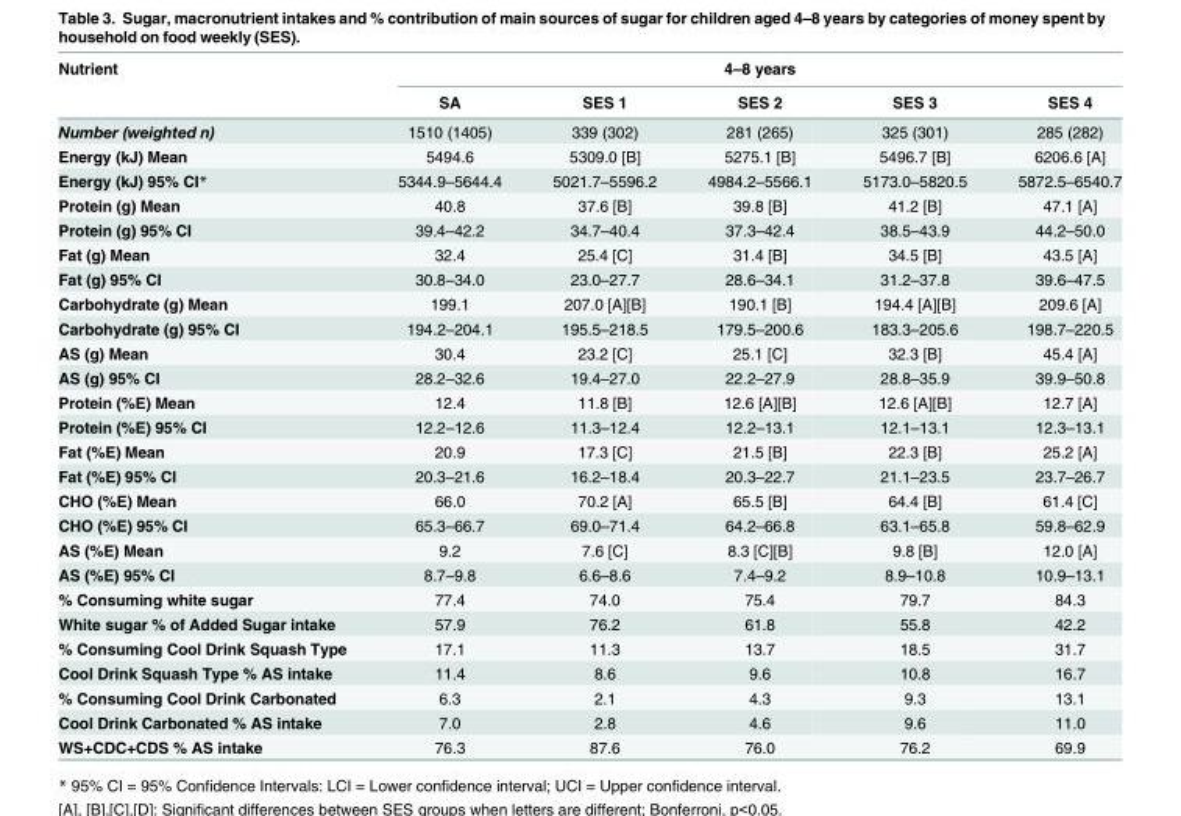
<table><thead><tr><td rowspan="2">Nutrient</td><td colspan="5">4–8 years</td></tr><tr><td>SA</td><td>SES 1</td><td>SES 2</td><td>SES 3</td><td>SES 4</td></tr></thead><tbody><tr><td>Number (weighted n)</td><td>1510 (1405)</td><td>339 (302)</td><td>281 (265)</td><td>325 (301)</td><td>285 (282)</td></tr><tr><td>Energy (kJ) Mean</td><td>5494.6</td><td>5309.0 [B]</td><td>5275.1 [B]</td><td>5496.7 [B]</td><td>6206.6 [A]</td></tr><tr><td>Energy (kJ) 95% CI*</td><td>5344.9–5644.4</td><td>5021.7–5596.2</td><td>4984.2–5566.1</td><td>5173.0–5820.5</td><td>5872.5–6540.7</td></tr><tr><td>Protein (g) Mean</td><td>40.8</td><td>37.6 [B]</td><td>39.8 [B]</td><td>41.2 [B]</td><td>47.1 [A]</td></tr><tr><td>Protein (g) 95% CI</td><td>39.4–42.2</td><td>34.7–40.4</td><td>37.3–42.4</td><td>38.5–43.9</td><td>44.2–50.0</td></tr><tr><td>Fat (g) Mean</td><td>32.4</td><td>25.4 [C]</td><td>31.4 [B]</td><td>34.5 [B]</td><td>43.5 [A]</td></tr><tr><td>Fat (g) 95% CI</td><td>30.8–34.0</td><td>23.0–27.7</td><td>28.6–34.1</td><td>31.2–37.8</td><td>39.6–47.5</td></tr><tr><td>Carbohydrate (g) Mean</td><td>199.1</td><td>207.0 [A][B]</td><td>190.1 [B]</td><td>194.4 [A][B]</td><td>209.6 [A]</td></tr><tr><td>Carbohydrate (g) 95% CI</td><td>194.2–204.1</td><td>195.5–218.5</td><td>179.5–200.6</td><td>183.3–205.6</td><td>198.7–220.5</td></tr><tr><td>AS (g) Mean</td><td>30.4</td><td>23.2 [C]</td><td>25.1 [C]</td><td>32.3 [B]</td><td>45.4 [A]</td></tr><tr><td>AS (g) 95% CI</td><td>28.2–32.6</td><td>19.4–27.0</td><td>22.2–27.9</td><td>28.8–35.9</td><td>39.9–50.8</td></tr><tr><td>Protein (%E) Mean</td><td>12.4</td><td>11.8 [B]</td><td>12.6 [A][B]</td><td>12.6 [A][B]</td><td>12.7 [A]</td></tr><tr><td>Protein (%E) 95% CI</td><td>12.2–12.6</td><td>11.3–12.4</td><td>12.2–13.1</td><td>12.1–13.1</td><td>12.3–13.1</td></tr><tr><td>Fat (%E) Mean</td><td>20.9</td><td>17.3 [C]</td><td>21.5 [B]</td><td>22.3 [B]</td><td>25.2 [A]</td></tr><tr><td>Fat (%E) 95% CI</td><td>20.3–21.6</td><td>16.2–18.4</td><td>20.3–22.7</td><td>21.1–23.5</td><td>23.7–26.7</td></tr><tr><td>CHO (%E) Mean</td><td>66.0</td><td>70.2 [A]</td><td>65.5 [B]</td><td>64.4 [B]</td><td>61.4 [C]</td></tr><tr><td>CHO (%E) 95% CI</td><td>65.3–66.7</td><td>69.0–71.4</td><td>64.2–66.8</td><td>63.1–65.8</td><td>59.8–62.9</td></tr><tr><td>AS (%E) Mean</td><td>9.2</td><td>7.6 [C]</td><td>8.3 [C][B]</td><td>9.8 [B]</td><td>12.0 [A]</td></tr><tr><td>AS (%E) 95% CI</td><td>8.7–9.8</td><td>6.6–8.6</td><td>7.4–9.2</td><td>8.9–10.8</td><td>10.9–13.1</td></tr><tr><td>% Consuming white sugar</td><td>77.4</td><td>74.0</td><td>75.4</td><td>79.7</td><td>84.3</td></tr><tr><td>White sugar % of Added Sugar intake</td><td>57.9</td><td>76.2</td><td>61.8</td><td>55.8</td><td>42.2</td></tr><tr><td>% Consuming Cool Drink Squash Type</td><td>17.1</td><td>11.3</td><td>13.7</td><td>18.5</td><td>31.7</td></tr><tr><td>Cool Drink Squash Type % AS intake</td><td>11.4</td><td>8.6</td><td>9.6</td><td>10.8</td><td>16.7</td></tr><tr><td>% Consuming Cool Drink Carbonated</td><td>6.3</td><td>2.1</td><td>4.3</td><td>9.3</td><td>13.1</td></tr><tr><td>Cool Drink Carbonated % AS intake</td><td>7.0</td><td>2.8</td><td>4.6</td><td>9.6</td><td>11.0</td></tr><tr><td>WS+CDC+CDS % AS intake</td><td>76.3</td><td>87.6</td><td>76.0</td><td>76.2</td><td>69.9</td></tr></tbody></table>